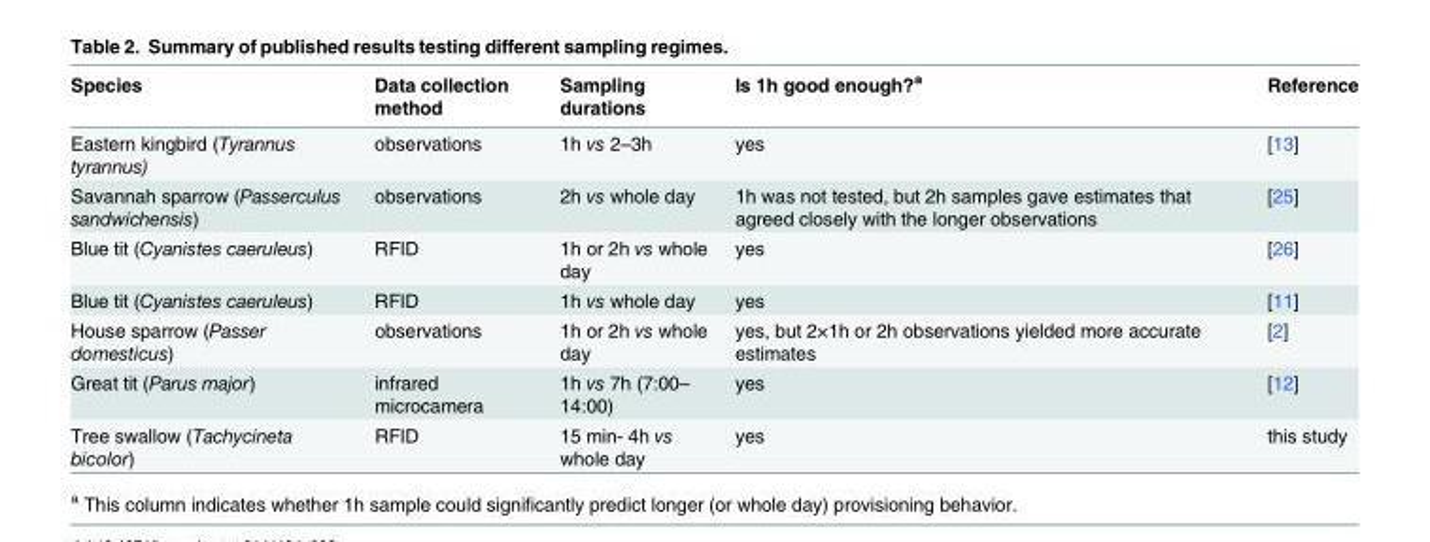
<table><thead><tr><td>Species</td><td>Data collection method</td><td>Sampling durations</td><td>Is 1h good enough?<sup>a</sup></td><td>Reference</td></tr></thead><tbody><tr><td>Eastern kingbird (Tyrannus tyrannus)</td><td>observations</td><td>1h vs 2–3h</td><td>yes</td><td>[13]</td></tr><tr><td>Savannah sparrow (Passerculus sandwichensis)</td><td>observations</td><td>2h vs whole day</td><td>1h was not tested, but 2h samples gave estimates that agreed closely with the longer observations</td><td>[25]</td></tr><tr><td>Blue tit (Cyanistes caeruleus)</td><td>RFID</td><td>1h or 2h vs whole day</td><td>yes</td><td>[26]</td></tr><tr><td>Blue tit (Cyanistes caeruleus)</td><td>RFID</td><td>1h vs whole day</td><td>yes</td><td>[11]</td></tr><tr><td>House sparrow (Passer domesticus)</td><td>observations</td><td>1h or 2h vs whole day</td><td>yes, but 2×1h or 2h observations yielded more accurate estimates</td><td>[2]</td></tr><tr><td>Great tit (Parus major)</td><td>infrared microcamera</td><td>1h vs 7h (7:00– 14:00)</td><td>yes</td><td>[12]</td></tr><tr><td>Tree swallow (Tachycineta bicolor)</td><td>RFID</td><td>15 min- 4h vs whole day</td><td>yes</td><td>this study</td></tr></tbody></table>